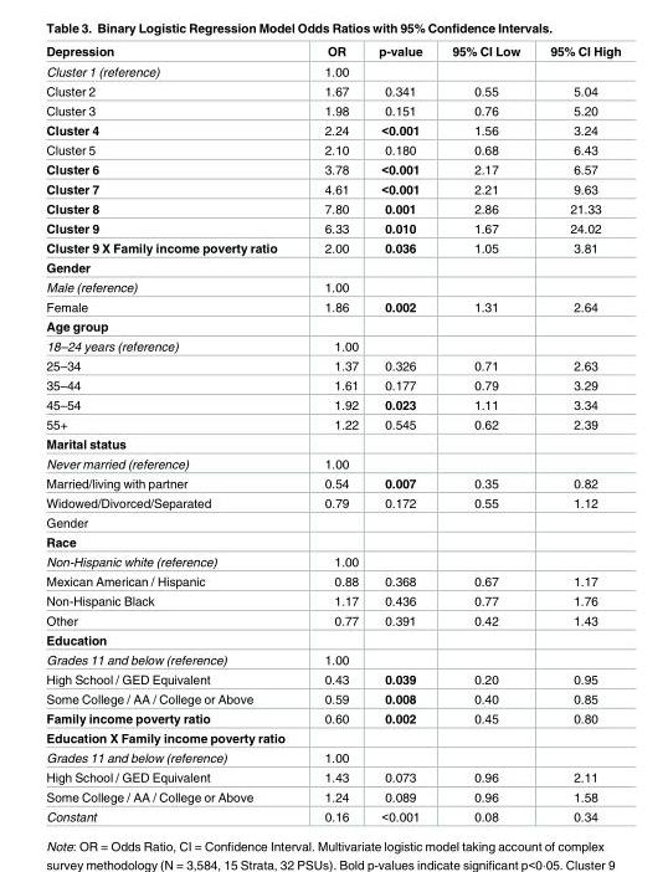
<table><thead><tr><td>Depression</td><td>OR</td><td>p-value</td><td>95% CI Low</td><td>95% CI High</td></tr></thead><tbody><tr><td>Cluster 1 (reference)</td><td>1.00</td><td></td><td></td><td></td></tr><tr><td>Cluster 2</td><td>1.67</td><td>0.341</td><td>0.55</td><td>5.04</td></tr><tr><td>Cluster 3</td><td>1.98</td><td>0.151</td><td>0.76</td><td>5.20</td></tr><tr><td>Cluster 4</td><td>2.24</td><td>&lt;0.001</td><td>1.56</td><td>3.24</td></tr><tr><td>Cluster 5</td><td>2.10</td><td>0.180</td><td>0.68</td><td>6.43</td></tr><tr><td>Cluster 6</td><td>3.78</td><td>&lt;0.001</td><td>2.17</td><td>6.57</td></tr><tr><td>Cluster 7</td><td>4.61</td><td>&lt;0.001</td><td>2.21</td><td>9.63</td></tr><tr><td>Cluster 8</td><td>7.80</td><td>0.001</td><td>2.86</td><td>21.33</td></tr><tr><td>Cluster 9</td><td>6.33</td><td>0.010</td><td>1.67</td><td>24.02</td></tr><tr><td>Cluster 9 X Family income poverty ratio</td><td>2.00</td><td>0.036</td><td>1.05</td><td>3.81</td></tr><tr><td colspan="5">Gender</td></tr><tr><td>Male (reference)</td><td>1.00</td><td></td><td></td><td></td></tr><tr><td>Female</td><td>1.86</td><td>0.002</td><td>1.31</td><td>2.64</td></tr><tr><td colspan="5">Age group</td></tr><tr><td>18–24 years (reference)</td><td>1.00</td><td></td><td></td><td></td></tr><tr><td>25–34</td><td>1.37</td><td>0.326</td><td>0.71</td><td>2.63</td></tr><tr><td>35–44</td><td>1.61</td><td>0.177</td><td>0.79</td><td>3.29</td></tr><tr><td>45–54</td><td>1.92</td><td>0.023</td><td>1.11</td><td>3.34</td></tr><tr><td>55+</td><td>1.22</td><td>0.545</td><td>0.62</td><td>2.39</td></tr><tr><td colspan="5">Marital status</td></tr><tr><td>Never married (reference)</td><td>1.00</td><td></td><td></td><td></td></tr><tr><td>Married/living with partner</td><td>0.54</td><td>0.007</td><td>0.35</td><td>0.82</td></tr><tr><td>Widowed/Divorced/Separated</td><td>0.79</td><td>0.172</td><td>0.55</td><td>1.12</td></tr><tr><td colspan="5">Gender</td></tr><tr><td colspan="5">Race</td></tr><tr><td>Non-Hispanic white (reference)</td><td>1.00</td><td></td><td></td><td></td></tr><tr><td>Mexican American / Hispanic</td><td>0.88</td><td>0.368</td><td>0.67</td><td>1.17</td></tr><tr><td>Non-Hispanic Black</td><td>1.17</td><td>0.436</td><td>0.77</td><td>1.76</td></tr><tr><td>Other</td><td>0.77</td><td>0.391</td><td>0.42</td><td>1.43</td></tr><tr><td colspan="5">Education</td></tr><tr><td>Grades 11 and below (reference)</td><td>1.00</td><td></td><td></td><td></td></tr><tr><td>High School / GED Equivalent</td><td>0.43</td><td>0.039</td><td>0.20</td><td>0.95</td></tr><tr><td>Some College / AA / College or Above</td><td>0.59</td><td>0.008</td><td>0.40</td><td>0.85</td></tr><tr><td>Family income poverty ratio</td><td>0.60</td><td>0.002</td><td>0.45</td><td>0.80</td></tr><tr><td colspan="5">Education X Family income poverty ratio</td></tr><tr><td>Grades 11 and below (reference)</td><td>1.00</td><td></td><td></td><td></td></tr><tr><td>High School / GED Equivalent</td><td>1.43</td><td>0.073</td><td>0.96</td><td>2.11</td></tr><tr><td>Some College / AA / College or Above</td><td>1.24</td><td>0.089</td><td>0.96</td><td>1.58</td></tr><tr><td>Constant</td><td>0.16</td><td>&lt;0.001</td><td>0.08</td><td>0.34</td></tr></tbody></table>